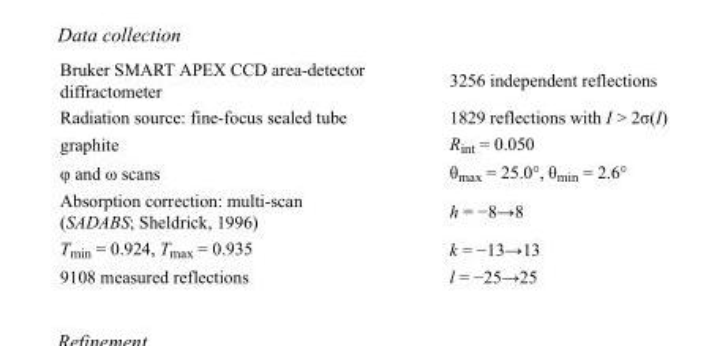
<table><tbody><tr><td>Bruker SMART APEX CCD area-detector diffractometer</td><td>3256 independent reflections</td></tr><tr><td>Radiation source: fine-focus sealed tube</td><td>1829 reflections with I &gt; 2σ(I)</td></tr><tr><td>graphite</td><td>R<sub>int</sub> = 0.050</td></tr><tr><td>φ and ω scans</td><td>θ<sub>max</sub> = 25.0°, θ<sub>min</sub> = 2.6°</td></tr><tr><td>Absorption correction: multi-scan (SADABS; Sheldrick, 1996)</td><td>h = −8→8</td></tr><tr><td>T<sub>min</sub> = 0.924, T<sub>max</sub> = 0.935</td><td>k = −13→13</td></tr><tr><td>9108 measured reflections</td><td>l = −25→25</td></tr></tbody></table>